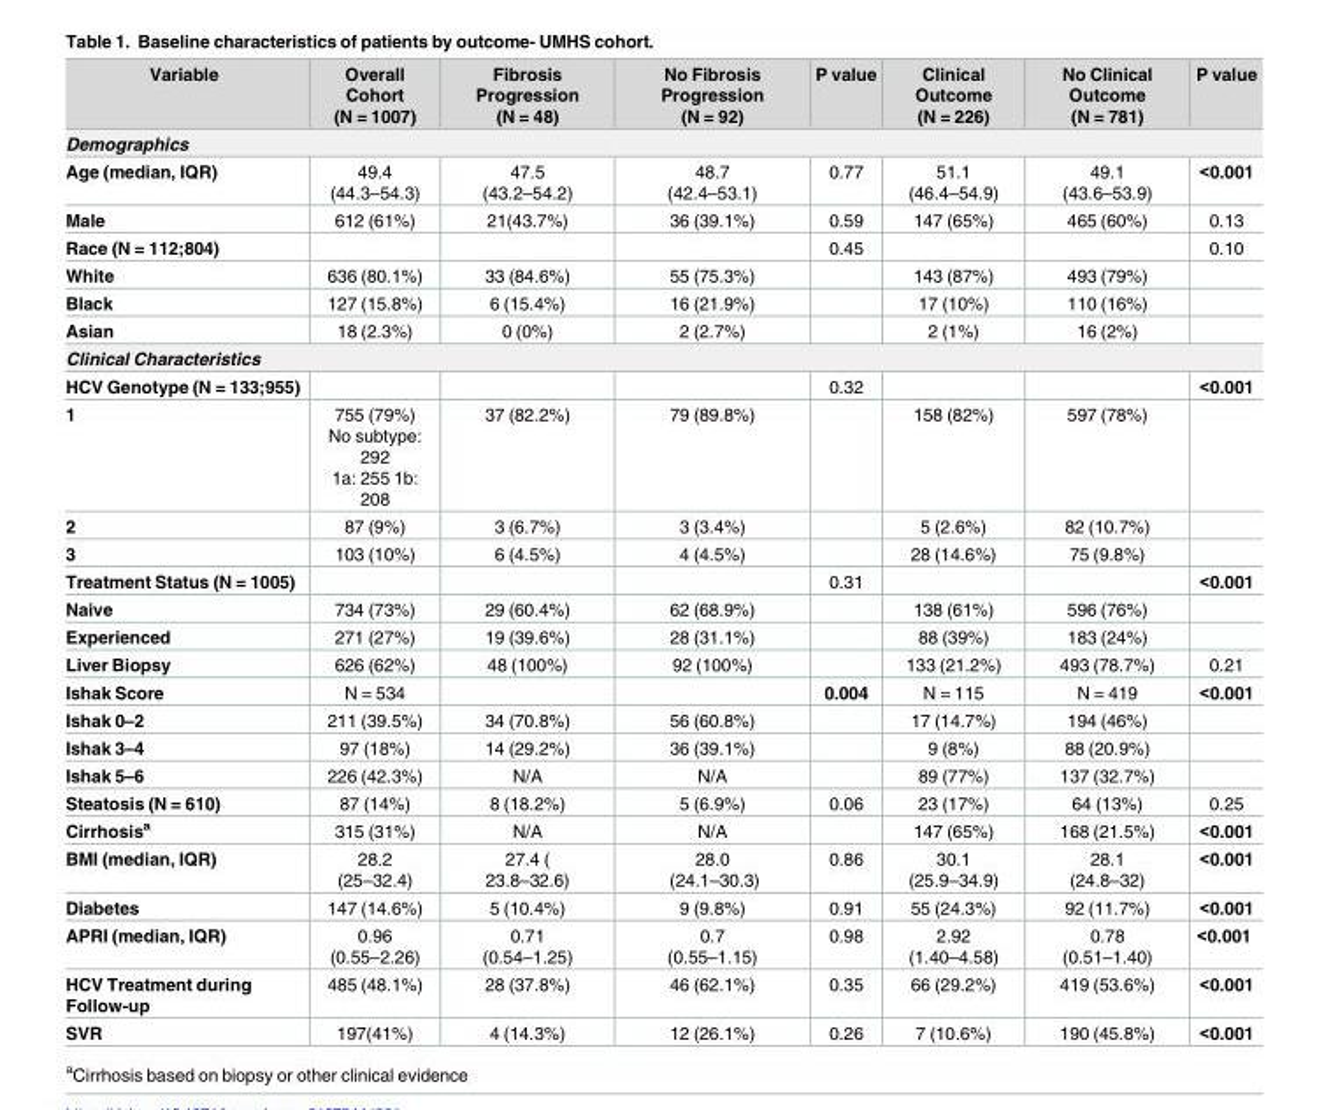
<table><thead><tr><td>Variable</td><td>Overall Cohort (N = 1007)</td><td>Fibrosis Progression (N = 48)</td><td>No Fibrosis Progression (N = 92)</td><td>P value</td><td>Clinical Outcome (N = 226)</td><td>No Clinical Outcome (N = 781)</td><td>P value</td></tr></thead><tbody><tr><td colspan="8">Demographics</td></tr><tr><td>Age (median, IQR)</td><td>49.4 (44.3–54.3)</td><td>47.5 (43.2–54.2)</td><td>48.7 (42.4–53.1)</td><td>0.77</td><td>51.1 (46.4–54.9)</td><td>49.1 (43.6–53.9)</td><td>&lt;0.001</td></tr><tr><td>Male</td><td>612 (61%)</td><td>21(43.7%)</td><td>36 (39.1%)</td><td>0.59</td><td>147 (65%)</td><td>465 (60%)</td><td>0.13</td></tr><tr><td>Race (N = 112;804)</td><td></td><td></td><td></td><td>0.45</td><td></td><td></td><td>0.10</td></tr><tr><td>White</td><td>636 (80.1%)</td><td>33 (84.6%)</td><td>55 (75.3%)</td><td></td><td>143 (87%)</td><td>493 (79%)</td><td></td></tr><tr><td>Black</td><td>127 (15.8%)</td><td>6 (15.4%)</td><td>16 (21.9%)</td><td></td><td>17 (10%)</td><td>110 (16%)</td><td></td></tr><tr><td>Asian</td><td>18 (2.3%)</td><td>0 (0%)</td><td>2 (2.7%)</td><td></td><td>2 (1%)</td><td>16 (2%)</td><td></td></tr><tr><td colspan="8">Clinical Characteristics</td></tr><tr><td>HCV Genotype (N = 133;955)</td><td></td><td></td><td></td><td>0.32</td><td></td><td></td><td>&lt;0.001</td></tr><tr><td>1</td><td>755 (79%) No subtype: 292 1a: 255 1b: 208</td><td>37 (82.2%)</td><td>79 (89.8%)</td><td></td><td>158 (82%)</td><td>597 (78%)</td><td></td></tr><tr><td>2</td><td>87 (9%)</td><td>3 (6.7%)</td><td>3 (3.4%)</td><td></td><td>5 (2.6%)</td><td>82 (10.7%)</td><td></td></tr><tr><td>3</td><td>103 (10%)</td><td>6 (4.5%)</td><td>4 (4.5%)</td><td></td><td>28 (14.6%)</td><td>75 (9.8%)</td><td></td></tr><tr><td>Treatment Status (N = 1005)</td><td></td><td></td><td></td><td>0.31</td><td></td><td></td><td>&lt;0.001</td></tr><tr><td>Naive</td><td>734 (73%)</td><td>29 (60.4%)</td><td>62 (68.9%)</td><td></td><td>138 (61%)</td><td>596 (76%)</td><td></td></tr><tr><td>Experienced</td><td>271 (27%)</td><td>19 (39.6%)</td><td>28 (31.1%)</td><td></td><td>88 (39%)</td><td>183 (24%)</td><td></td></tr><tr><td>Liver Biopsy</td><td>626 (62%)</td><td>48 (100%)</td><td>92 (100%)</td><td></td><td>133 (21.2%)</td><td>493 (78.7%)</td><td>0.21</td></tr><tr><td>Ishak Score</td><td>N = 534</td><td></td><td></td><td>0.004</td><td>N = 115</td><td>N = 419</td><td>&lt;0.001</td></tr><tr><td>Ishak 0–2</td><td>211 (39.5%)</td><td>34 (70.8%)</td><td>56 (60.8%)</td><td></td><td>17 (14.7%)</td><td>194 (46%)</td><td></td></tr><tr><td>Ishak 3–4</td><td>97 (18%)</td><td>14 (29.2%)</td><td>36 (39.1%)</td><td></td><td>9 (8%)</td><td>88 (20.9%)</td><td></td></tr><tr><td>Ishak 5–6</td><td>226 (42.3%)</td><td>N/A</td><td>N/A</td><td></td><td>89 (77%)</td><td>137 (32.7%)</td><td></td></tr><tr><td>Steatosis (N = 610)</td><td>87 (14%)</td><td>8 (18.2%)</td><td>5 (6.9%)</td><td>0.06</td><td>23 (17%)</td><td>64 (13%)</td><td>0.25</td></tr><tr><td>Cirrhosis<sup>a</sup></td><td>315 (31%)</td><td>N/A</td><td>N/A</td><td></td><td>147 (65%)</td><td>168 (21.5%)</td><td>&lt;0.001</td></tr><tr><td>BMI (median, IQR)</td><td>28.2 (25–32.4)</td><td>27.4 ( 23.8–32.6)</td><td>28.0 (24.1–30.3)</td><td>0.86</td><td>30.1 (25.9–34.9)</td><td>28.1 (24.8–32)</td><td>&lt;0.001</td></tr><tr><td>Diabetes</td><td>147 (14.6%)</td><td>5 (10.4%)</td><td>9 (9.8%)</td><td>0.91</td><td>55 (24.3%)</td><td>92 (11.7%)</td><td>&lt;0.001</td></tr><tr><td>APRI (median, IQR)</td><td>0.96 (0.55–2.26)</td><td>0.71 (0.54–1.25)</td><td>0.7 (0.55–1.15)</td><td>0.98</td><td>2.92 (1.40–4.58)</td><td>0.78 (0.51–1.40)</td><td>&lt;0.001</td></tr><tr><td>HCV Treatment during Follow-up</td><td>485 (48.1%)</td><td>28 (37.8%)</td><td>46 (62.1%)</td><td>0.35</td><td>66 (29.2%)</td><td>419 (53.6%)</td><td>&lt;0.001</td></tr><tr><td>SVR</td><td>197(41%)</td><td>4 (14.3%)</td><td>12 (26.1%)</td><td>0.26</td><td>7 (10.6%)</td><td>190 (45.8%)</td><td>&lt;0.001</td></tr></tbody></table>